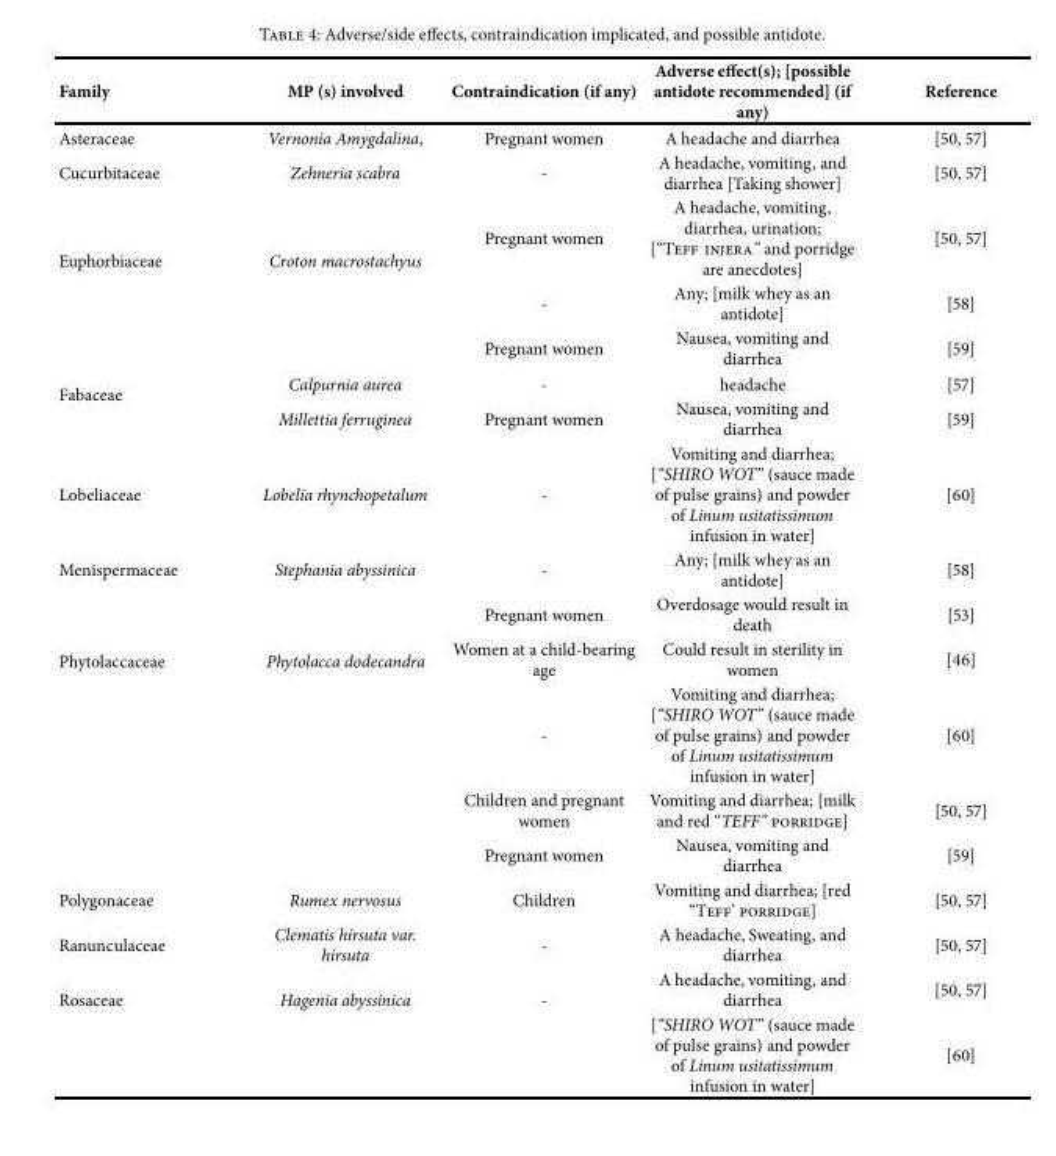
<table><thead><tr><td>Family</td><td>MP (s) involved</td><td>Contraindication (if any)</td><td>Adverse effect(s); [possible antidote recommended] (if any)</td><td>Reference</td></tr></thead><tbody><tr><td>Asteraceae</td><td>Vernonia Amygdalina,</td><td>Pregnant women</td><td>A headache and diarrhea</td><td>[50, 57]</td></tr><tr><td>Cucurbitaceae</td><td>Zehneria scabra</td><td>-</td><td>A headache, vomiting, and diarrhea [Taking shower]</td><td>[50, 57]</td></tr><tr><td rowspan="3">Euphorbiaceae</td><td rowspan="3">Croton macrostachyus</td><td>Pregnant women</td><td>A headache, vomiting, diarrhea, urination; [“Teff injera” and porridge are anecdotes]</td><td>[50, 57]</td></tr><tr><td>-</td><td>Any; [milk whey as an antidote]</td><td>[58]</td></tr><tr><td>Pregnant women</td><td>Nausea, vomiting and diarrhea</td><td>[59]</td></tr><tr><td rowspan="2">Fabaceae</td><td>Calpurnia aurea</td><td>-</td><td>headache</td><td>[57]</td></tr><tr><td>Millettia ferruginea</td><td>Pregnant women</td><td>Nausea, vomiting and diarrhea</td><td>[59]</td></tr><tr><td>Lobeliaceae</td><td>Lobelia rhynchopetalum</td><td>-</td><td>Vomiting and diarrhea; [“SHIRO WOT” (sauce made of pulse grains) and powder of Linum usitatissimum infusion in water]</td><td>[60]</td></tr><tr><td>Menispermaceae</td><td>Stephania abyssinica</td><td>-</td><td>Any; [milk whey as an antidote]</td><td>[58]</td></tr><tr><td rowspan="5">Phytolaccaceae</td><td rowspan="5">Phytolacca dodecandra</td><td>Pregnant women</td><td>Overdosage would result in death</td><td>[53]</td></tr><tr><td>Women at a child-bearing age</td><td>Could result in sterility in women</td><td>[46]</td></tr><tr><td>-</td><td>Vomiting and diarrhea; [“SHIRO WOT” (sauce made of pulse grains) and powder of Linum usitatissimum infusion in water]</td><td>[60]</td></tr><tr><td>Children and pregnant women</td><td>Vomiting and diarrhea; [milk and red “TEFF” porridge]</td><td>[50, 57]</td></tr><tr><td>Pregnant women</td><td>Nausea, vomiting and diarrhea</td><td>[59]</td></tr><tr><td>Polygonaceae</td><td>Rumex nervosus</td><td>Children</td><td>Vomiting and diarrhea; [red “Teff’ porridge]</td><td>[50, 57]</td></tr><tr><td>Ranunculaceae</td><td>Clematis hirsuta var. hirsuta</td><td>-</td><td>A headache, Sweating, and diarrhea</td><td>[50, 57]</td></tr><tr><td rowspan="2">Rosaceae</td><td rowspan="2">Hagenia abyssinica</td><td rowspan="2">-</td><td>A headache, vomiting, and diarrhea</td><td>[50, 57]</td></tr><tr><td>[“SHIRO WOT” (sauce made of pulse grains) and powder of Linum usitatissimum infusion in water]</td><td>[60]</td></tr></tbody></table>